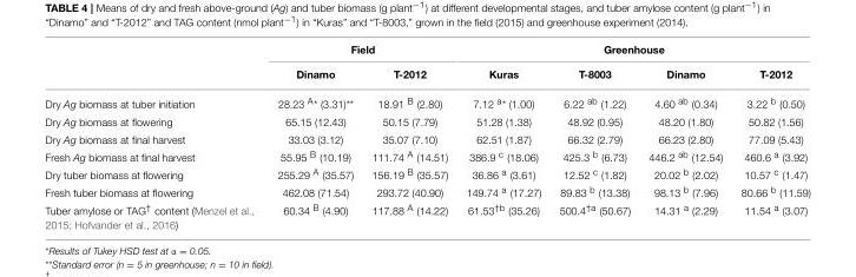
<table><thead><tr><td rowspan="2"></td><td colspan="2">Field</td><td colspan="4">Greenhouse</td></tr><tr><td>Dinamo</td><td>T-2012</td><td>Kuras</td><td>T-8003</td><td>Dinamo</td><td>T-2012</td></tr></thead><tbody><tr><td>Dry Ag biomass at tuber initiation</td><td>28.23 <sup>A*</sup> (3.31)**</td><td>18.91 <sup>B</sup> (2.80)</td><td>7.12 <sup>a*</sup> (1.00)</td><td>6.22 <sup>ab</sup> (1.22)</td><td>4.60 <sup>ab</sup> (0.34)</td><td>3.22 <sup>b</sup> (0.50)</td></tr><tr><td>Dry Ag biomass at flowering</td><td>65.15 (12.43)</td><td>50.15 (7.79)</td><td>51.28 (1.38)</td><td>48.92 (0.95)</td><td>48.20 (1.80)</td><td>50.82 (1.56)</td></tr><tr><td>Dry Ag biomass at final harvest</td><td>33.03 (3.12)</td><td>35.07 (7.10)</td><td>62.51 (1.87)</td><td>66.32 (2.79)</td><td>66.23 (2.80)</td><td>77.09 (5.43)</td></tr><tr><td>Fresh Ag biomass at final harvest</td><td>55.95 <sup>B</sup> (10.19)</td><td>111.74 <sup>A</sup> (14.51)</td><td>386.9 <sup>c</sup> (18.06)</td><td>425.3 <sup>b</sup> (6.73)</td><td>446.2 <sup>ab</sup> (12.54)</td><td>460.6 <sup>a</sup> (3.92)</td></tr><tr><td>Dry tuber biomass at flowering</td><td>255.29 <sup>A</sup> (35.57)</td><td>156.19 <sup>B</sup> (35.57)</td><td>36.86 <sup>a</sup> (3.61)</td><td>12.52 <sup>c</sup> (1.82)</td><td>20.02 <sup>b</sup> (2.02)</td><td>10.57 <sup>c</sup> (1.47)</td></tr><tr><td>Fresh tuber biomass at flowering</td><td>462.08 (71.54)</td><td>293.72 (40.90)</td><td>149.74 <sup>a</sup> (17.27)</td><td>89.83 <sup>b</sup> (13.38)</td><td>98.13 <sup>b</sup> (7.96)</td><td>80.66 <sup>b</sup> (11.59)</td></tr><tr><td>Tuber amylose or TAG<sup>†</sup> content (Menzel et al., 2015; Hofvander et al., 2016)</td><td>60.34 <sup>B</sup> (4.90)</td><td>117.88 <sup>A</sup> (14.22)</td><td>61.53<sup>†b</sup> (35.26)</td><td>500.4<sup>†a</sup> (50.67)</td><td>14.31 <sup>a</sup> (2.29)</td><td>11.54 <sup>a</sup> (3.07)</td></tr></tbody></table>